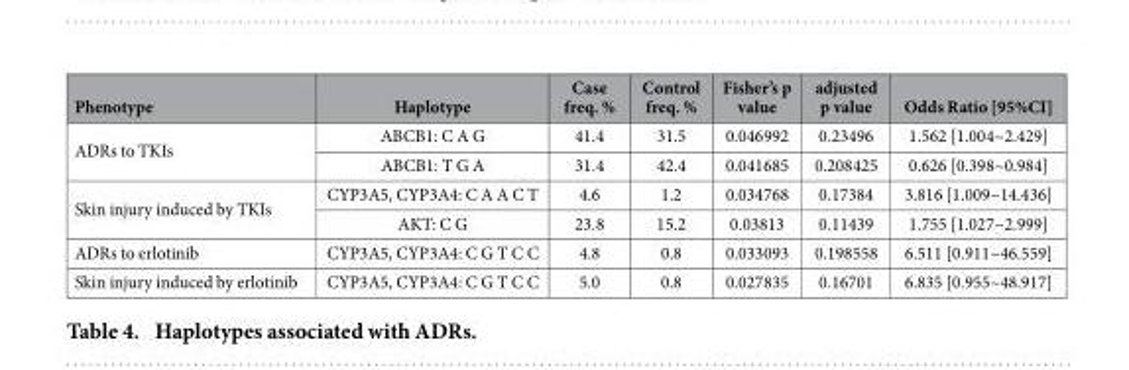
<table><thead><tr><td>Phenotype</td><td>Haplotype</td><td>Case freq. %</td><td>Control freq. %</td><td>Fisher’s p value</td><td>adjusted p value</td><td>Odds Ratio [95%CI]</td></tr></thead><tbody><tr><td rowspan="2">ADRs to TKIs</td><td>ABCB1: C A G</td><td>41.4</td><td>31.5</td><td>0.046992</td><td>0.23496</td><td>1.562 [1.004~2.429]</td></tr><tr><td>ABCB1: T G A</td><td>31.4</td><td>42.4</td><td>0.041685</td><td>0.208425</td><td>0.626 [0.398~0.984]</td></tr><tr><td rowspan="2">Skin injury induced by TKIs</td><td>CYP3A5, CYP3A4: C A A C T</td><td>4.6</td><td>1.2</td><td>0.034768</td><td>0.17384</td><td>3.816 [1.009~14.436]</td></tr><tr><td>AKT: C G</td><td>23.8</td><td>15.2</td><td>0.03813</td><td>0.11439</td><td>1.755 [1.027~2.999]</td></tr><tr><td>ADRs to erlotinib</td><td>CYP3A5, CYP3A4: C G T C C</td><td>4.8</td><td>0.8</td><td>0.033093</td><td>0.198558</td><td>6.511 [0.911~46.559]</td></tr><tr><td>Skin injury induced by erlotinib</td><td>CYP3A5, CYP3A4: C G T C C</td><td>5.0</td><td>0.8</td><td>0.027835</td><td>0.16701</td><td>6.835 [0.955~48.917]</td></tr></tbody></table>